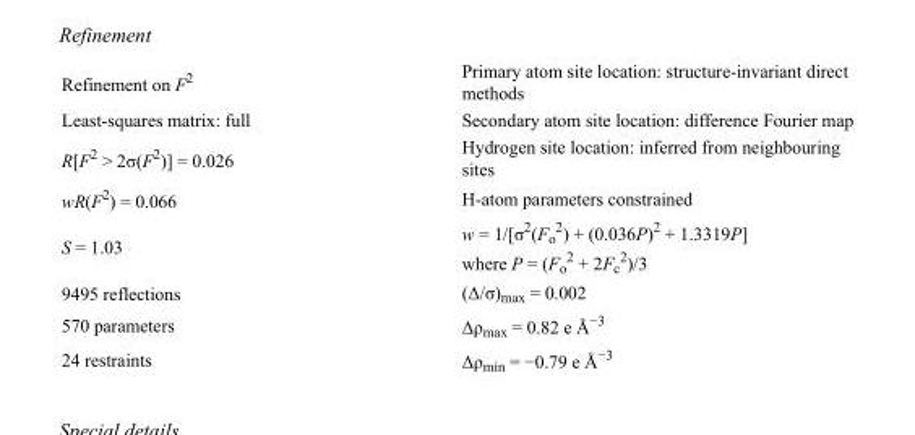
<table><tbody><tr><td>Refinement on F<sup>2</sup></td><td>Primary atom site location: structure-invariant direct methods</td></tr><tr><td>Least-squares matrix: full</td><td>Secondary atom site location: difference Fourier map</td></tr><tr><td>R[F<sup>2</sup> &gt; 2σ(F<sup>2</sup>)] = 0.026</td><td>Hydrogen site location: inferred from neighbouring sites</td></tr><tr><td>wR(F<sup>2</sup>) = 0.066</td><td>H-atom parameters constrained</td></tr><tr><td>S = 1.03</td><td>w = 1/[σ<sup>2</sup>(F<sub>o</sub> <sup>2</sup>) + (0.036P)<sup>2</sup> + 1.3319P] where P = (F<sub>o</sub> <sup>2</sup> + 2F<sub>c</sub> <sup>2</sup>)/3</td></tr><tr><td>9495 reflections</td><td>(Δ/σ)<sub>max</sub> = 0.002</td></tr><tr><td>570 parameters</td><td>Δρ<sub>max</sub> = 0.82 e Å<sup>−3</sup></td></tr><tr><td>24 restraints</td><td>Δρ<sub>min</sub> = −0.79 e Å<sup>−3</sup></td></tr></tbody></table>